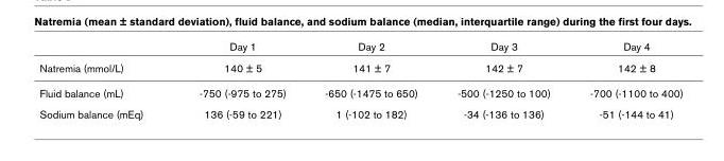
<table><thead><tr><td></td><td>Day 1</td><td>Day 2</td><td>Day 3</td><td>Day 4</td></tr></thead><tbody><tr><td>Natremia (mmol/L)</td><td>140 ± 5</td><td>141 ± 7</td><td>142 ± 7</td><td>142 ± 8</td></tr><tr><td>Fluid balance (mL)</td><td>-750 (-975 to 275)</td><td>-650 (-1475 to 650)</td><td>-500 (-1250 to 100)</td><td>-700 (-1100 to 400)</td></tr><tr><td>Sodium balance (mEq)</td><td>136 (-59 to 221)</td><td>1 (-102 to 182)</td><td>-34 (-136 to 136)</td><td>-51 (-144 to 41)</td></tr></tbody></table>